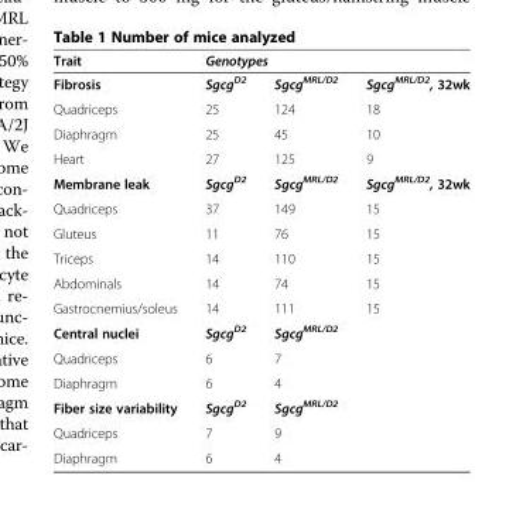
<table><thead><tr><td rowspan="2">Trait Fibrosis</td><td colspan="3">Genotypes</td></tr><tr><td>Sgcg<sup>D2</sup></td><td>Sgcg<sup>MRL/D2</sup></td><td>Sgcg<sup>MRL/D2</sup>, 32wk</td></tr></thead><tbody><tr><td>Quadriceps</td><td>25</td><td>124</td><td>18</td></tr><tr><td>Diaphragm</td><td>25</td><td>45</td><td>10</td></tr><tr><td>Heart</td><td>27</td><td>125</td><td>9</td></tr><tr><td>Membrane leak</td><td>Sgcg<sup>D2</sup></td><td>Sgcg<sup>MRL/D2</sup></td><td>Sgcg<sup>MRL/D2</sup>, 32wk</td></tr><tr><td>Quadriceps</td><td>37</td><td>149</td><td>15</td></tr><tr><td>Gluteus</td><td>11</td><td>76</td><td>15</td></tr><tr><td>Triceps</td><td>14</td><td>110</td><td>15</td></tr><tr><td>Abdominals</td><td>14</td><td>74</td><td>15</td></tr><tr><td>Gastrocnemius/soleus</td><td>14</td><td>111</td><td>15</td></tr><tr><td>Central nuclei</td><td>Sgcg<sup>D2</sup></td><td colspan="2">Sgcg<sup>MRL/D2</sup></td></tr><tr><td>Quadriceps</td><td>6</td><td colspan="2">7</td></tr><tr><td>Diaphragm</td><td>6</td><td colspan="2">4</td></tr><tr><td>Fiber size variability</td><td>Sgcg<sup>D2</sup></td><td colspan="2">Sgcg<sup>MRL/D2</sup></td></tr><tr><td>Quadriceps</td><td>7</td><td colspan="2">9</td></tr><tr><td>Diaphragm</td><td>6</td><td colspan="2">4</td></tr></tbody></table>